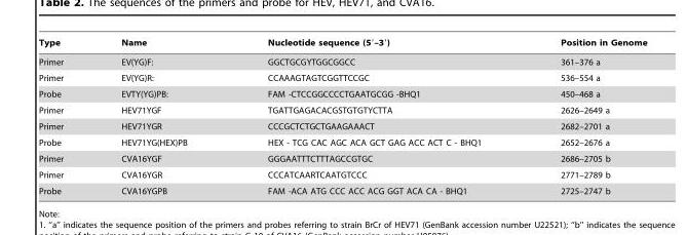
<table><thead><tr><td>Type</td><td>Name</td><td>Nucleotide sequence (5′–3′)</td><td>Position in Genome</td></tr></thead><tbody><tr><td>Primer</td><td>EV(YG)F:</td><td>GGCTGCGYTGGCGGCC</td><td>361–376 a</td></tr><tr><td>Primer</td><td>EV(YG)R:</td><td>CCAAAGTAGTCGGTTCCGC</td><td>536–554 a</td></tr><tr><td>Probe</td><td>EVTY(YG)PB:</td><td>FAM -CTCCGGCCCCTGAATGCGG -BHQ1</td><td>450–468 a</td></tr><tr><td>Primer</td><td>HEV71YGF</td><td>TGATTGAGACACGSTGTGTYCTTA</td><td>2626–2649 a</td></tr><tr><td>Primer</td><td>HEV71YGR</td><td>CCCGCTCTGCTGAAGAAACT</td><td>2682–2701 a</td></tr><tr><td>Probe</td><td>HEV71YG(HEX)PB</td><td>HEX - TCG CAC AGC ACA GCT GAG ACC ACT C - BHQ1</td><td>2652–2676 a</td></tr><tr><td>Primer</td><td>CVA16YGF</td><td>GGGAATTTCTTTAGCCGTGC</td><td>2686–2705 b</td></tr><tr><td>Primer</td><td>CVA16YGR</td><td>CCCATCAARTCAATGTCCC</td><td>2771–2789 b</td></tr><tr><td>Probe</td><td>CVA16YGPB</td><td>FAM -ACA ATG CCC ACC ACG GGT ACA CA - BHQ1</td><td>2725–2747 b</td></tr></tbody></table>